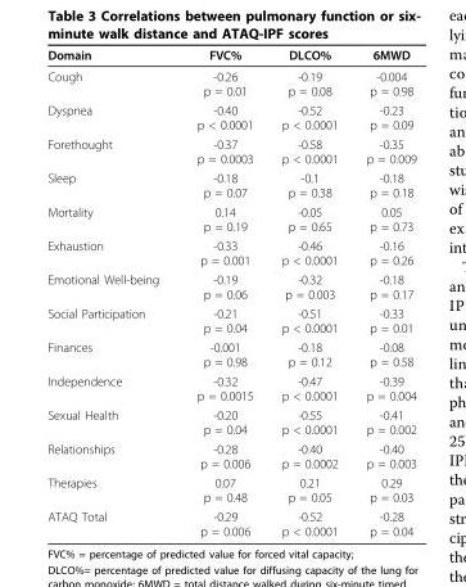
<table><thead><tr><td>Domain</td><td>FVC%</td><td>DLCO%</td><td>6MWD</td></tr></thead><tbody><tr><td>Cough</td><td>-0.26 p = 0.01</td><td>-0.19 p = 0.08</td><td>-0.004 p = 0.98</td></tr><tr><td>Dyspnea</td><td>-0.40 p &lt; 0.0001</td><td>-0.52 p &lt; 0.0001</td><td>-0.23 p = 0.09</td></tr><tr><td>Forethought</td><td>-0.37 p = 0.0003</td><td>-0.58 p &lt; 0.0001</td><td>-0.35 p = 0.009</td></tr><tr><td>Sleep</td><td>-0.18 p = 0.07</td><td>-0.1 p = 0.38</td><td>-0.18 p = 0.18</td></tr><tr><td>Mortality</td><td>0.14 p = 0.19</td><td>-0.05 p = 0.65</td><td>0.05 p = 0.73</td></tr><tr><td>Exhaustion</td><td>-0.33 p = 0.001</td><td>-0.46 p &lt; 0.0001</td><td>-0.16 p = 0.26</td></tr><tr><td>Emotional Well-being</td><td>-0.19 p = 0.06</td><td>-0.32 p = 0.003</td><td>-0.18 p = 0.17</td></tr><tr><td>Social Participation</td><td>-0.21 p = 0.04</td><td>-0.51 p &lt; 0.0001</td><td>-0.33 p = 0.01</td></tr><tr><td>Finances</td><td>-0.001 p = 0.98</td><td>-0.18 p = 0.12</td><td>-0.08 p = 0.58</td></tr><tr><td>Independence</td><td>-0.32 p = 0.0015</td><td>-0.47 p &lt; 0.0001</td><td>-0.39 p = 0.004</td></tr><tr><td>Sexual Health</td><td>-0.20 p = 0.04</td><td>-0.55 p &lt; 0.0001</td><td>-0.41 p = 0.002</td></tr><tr><td>Relationships</td><td>-0.28 p = 0.006</td><td>-0.40 p = 0.0002</td><td>-0.40 p = 0.003</td></tr><tr><td>Therapies</td><td>0.07 p = 0.48</td><td>0.21 p = 0.05</td><td>0.29 p = 0.03</td></tr><tr><td>ATAQ Total</td><td>-0.29 p = 0.006</td><td>-0.52 p &lt; 0.0001</td><td>-0.28 p = 0.04</td></tr></tbody></table>